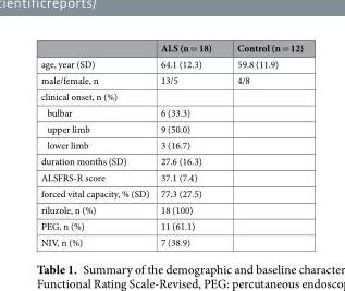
<table><thead><tr><td></td><td>ALS (n = 18)</td><td>Control (n = 12)</td></tr></thead><tbody><tr><td>age, year (SD)</td><td>64.1 (12.3)</td><td>59.8 (11.9)</td></tr><tr><td>male/female, n</td><td>13/5</td><td>4/8</td></tr><tr><td colspan="3">clinical onset, n (%)</td></tr><tr><td>bulbar</td><td>6 (33.3)</td><td></td></tr><tr><td>upper limb</td><td>9 (50.0)</td><td></td></tr><tr><td>lower limb</td><td>3 (16.7)</td><td></td></tr><tr><td>duration months (SD)</td><td>27.6 (16.3)</td><td></td></tr><tr><td>ALSFRS-R score</td><td>37.1 (7.4)</td><td></td></tr><tr><td>forced vital capacity, % (SD)</td><td>77.3 (27.5)</td><td></td></tr><tr><td>riluzole, n (%)</td><td>18 (100)</td><td></td></tr><tr><td>PEG, n (%)</td><td>11 (61.1)</td><td></td></tr><tr><td>NIV, n (%)</td><td>7 (38.9)</td><td></td></tr></tbody></table>